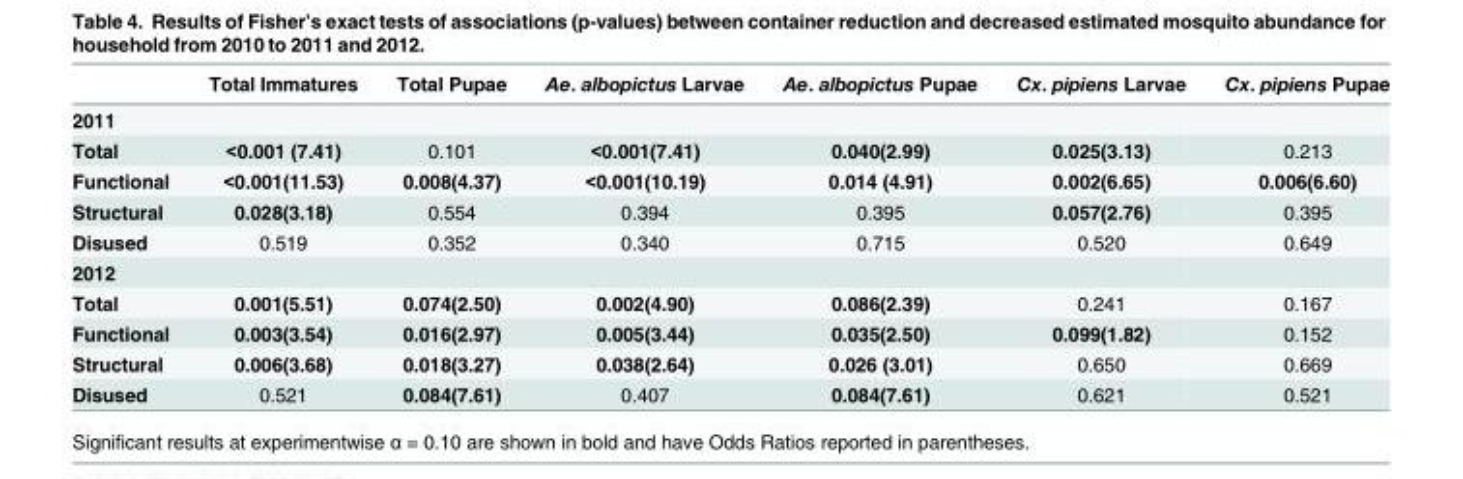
<table><thead><tr><td></td><td>Total Immatures</td><td>Total Pupae</td><td>Ae. albopictus Larvae</td><td>Ae. albopictus Pupae</td><td>Cx. pipiens Larvae</td><td>Cx. pipiens Pupae</td></tr></thead><tbody><tr><td colspan="7">2011</td></tr><tr><td>Total</td><td>&lt;0.001 (7.41)</td><td>0.101</td><td>&lt;0.001(7.41)</td><td>0.040(2.99)</td><td>0.025(3.13)</td><td>0.213</td></tr><tr><td>Functional</td><td>&lt;0.001(11.53)</td><td>0.008(4.37)</td><td>&lt;0.001(10.19)</td><td>0.014 (4.91)</td><td>0.002(6.65)</td><td>0.006(6.60)</td></tr><tr><td>Structural</td><td>0.028(3.18)</td><td>0.554</td><td>0.394</td><td>0.395</td><td>0.057(2.76)</td><td>0.395</td></tr><tr><td>Disused</td><td>0.519</td><td>0.352</td><td>0.340</td><td>0.715</td><td>0.520</td><td>0.649</td></tr><tr><td colspan="7">2012</td></tr><tr><td>Total</td><td>0.001(5.51)</td><td>0.074(2.50)</td><td>0.002(4.90)</td><td>0.086(2.39)</td><td>0.241</td><td>0.167</td></tr><tr><td>Functional</td><td>0.003(3.54)</td><td>0.016(2.97)</td><td>0.005(3.44)</td><td>0.035(2.50)</td><td>0.099(1.82)</td><td>0.152</td></tr><tr><td>Structural</td><td>0.006(3.68)</td><td>0.018(3.27)</td><td>0.038(2.64)</td><td>0.026 (3.01)</td><td>0.650</td><td>0.669</td></tr><tr><td>Disused</td><td>0.521</td><td>0.084(7.61)</td><td>0.407</td><td>0.084(7.61)</td><td>0.621</td><td>0.521</td></tr></tbody></table>